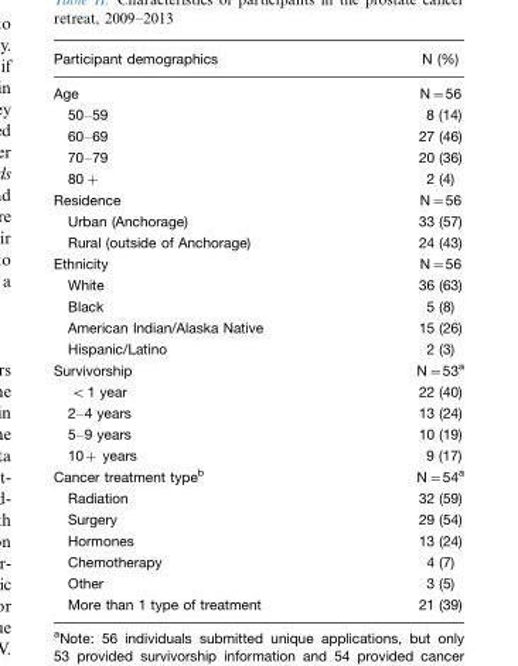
<table><thead><tr><td>Participant demographics</td><td>N (%)</td></tr></thead><tbody><tr><td>Age</td><td>N=56</td></tr><tr><td>50–59</td><td>8 (14)</td></tr><tr><td>60–69</td><td>27 (46)</td></tr><tr><td>70–79</td><td>20 (36)</td></tr><tr><td>80+</td><td>2 (4)</td></tr><tr><td>Residence</td><td>N=56</td></tr><tr><td>Urban (Anchorage)</td><td>33 (57)</td></tr><tr><td>Rural (outside of Anchorage)</td><td>24 (43)</td></tr><tr><td>Ethnicity</td><td>N=56</td></tr><tr><td>White</td><td>36 (63)</td></tr><tr><td>Black</td><td>5 (8)</td></tr><tr><td>American Indian/Alaska Native</td><td>15 (26)</td></tr><tr><td>Hispanic/Latino</td><td>2 (3)</td></tr><tr><td>Survivorship</td><td>N=53<sup>a</sup></td></tr><tr><td>&lt;1 year</td><td>22 (40)</td></tr><tr><td>2–4 years</td><td>13 (24)</td></tr><tr><td>5–9 years</td><td>10 (19)</td></tr><tr><td>10+ years</td><td>9 (17)</td></tr><tr><td>Cancer treatment type<sup>b</sup></td><td>N=54<sup>a</sup></td></tr><tr><td>Radiation</td><td>32 (59)</td></tr><tr><td>Surgery</td><td>29 (54)</td></tr><tr><td>Hormones</td><td>13 (24)</td></tr><tr><td>Chemotherapy</td><td>4 (7)</td></tr><tr><td>Other</td><td>3 (5)</td></tr><tr><td>More than 1 type of treatment</td><td>21 (39)</td></tr></tbody></table>